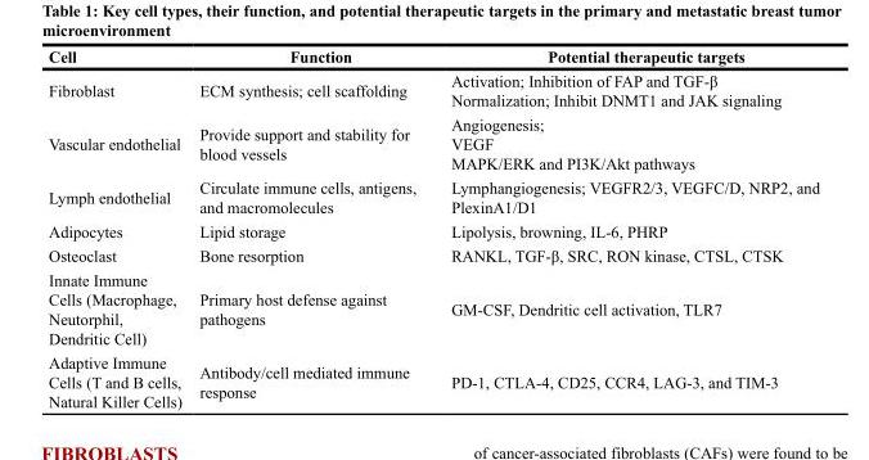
<table><thead><tr><td>Cell</td><td>Function</td><td>Potential therapeutic targets</td></tr></thead><tbody><tr><td>Fibroblast</td><td>ECM synthesis; cell scaffolding</td><td>Activation; Inhibition of FAP and TGF-β Normalization; Inhibit DNMT1 and JAK signaling</td></tr><tr><td>Vascular endothelial</td><td>Provide support and stability for blood vessels</td><td>Angiogenesis; VEGF MAPK/ERK and PI3K/Akt pathways</td></tr><tr><td>Lymph endothelial</td><td>Circulate immune cells, antigens, and macromolecules</td><td>Lymphangiogenesis; VEGFR2/3, VEGFC/D, NRP2, and PlexinA1/D1</td></tr><tr><td>Adipocytes</td><td>Lipid storage</td><td>Lipolysis, browning, IL-6, PHRP</td></tr><tr><td>Osteoclast</td><td>Bone resorption</td><td>RANKL, TGF-β, SRC, RON kinase, CTSL, CTSK</td></tr><tr><td>Innate Immune Cells (Macrophage, Neutorphil, Dendritic Cell)</td><td>Primary host defense against pathogens</td><td>GM-CSF, Dendritic cell activation, TLR7</td></tr><tr><td>Adaptive Immune Cells (T and B cells, Natural Killer Cells)</td><td>Antibody/cell mediated immune response</td><td>PD-1, CTLA-4, CD25, CCR4, LAG-3, and TIM-3</td></tr></tbody></table>